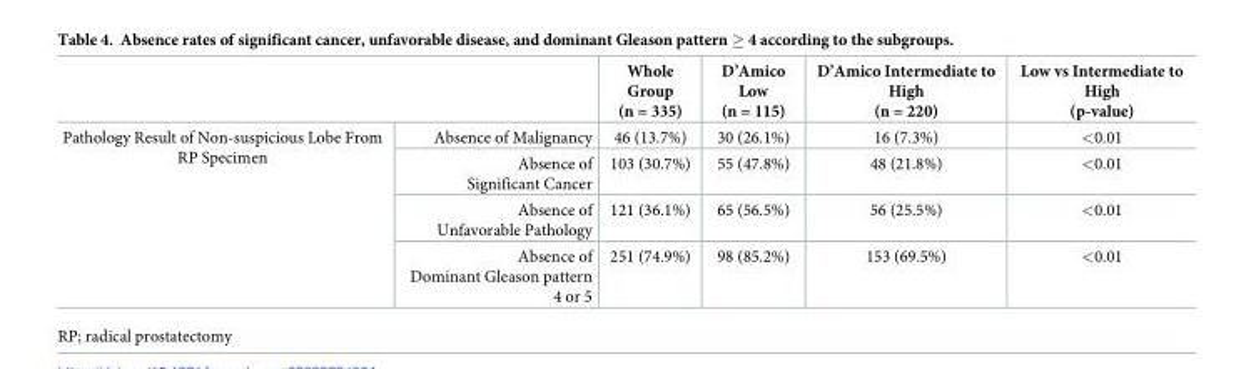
<table><thead><tr><td></td><td></td><td>Whole Group (n = 335)</td><td>D’Amico Low (n = 115)</td><td>D’Amico Intermediate to High (n = 220)</td><td>Low vs Intermediate to High (p-value)</td></tr></thead><tbody><tr><td rowspan="4">Pathology Result of Non-suspicious Lobe From RP Specimen</td><td>Absence of Malignancy</td><td>46 (13.7%)</td><td>30 (26.1%)</td><td>16 (7.3%)</td><td>&lt;0.01</td></tr><tr><td>Absence of Significant Cancer</td><td>103 (30.7%)</td><td>55 (47.8%)</td><td>48 (21.8%)</td><td>&lt;0.01</td></tr><tr><td>Absence of Unfavorable Pathology</td><td>121 (36.1%)</td><td>65 (56.5%)</td><td>56 (25.5%)</td><td>&lt;0.01</td></tr><tr><td>Absence of Dominant Gleason pattern 4 or 5</td><td>251 (74.9%)</td><td>98 (85.2%)</td><td>153 (69.5%)</td><td>&lt;0.01</td></tr></tbody></table>